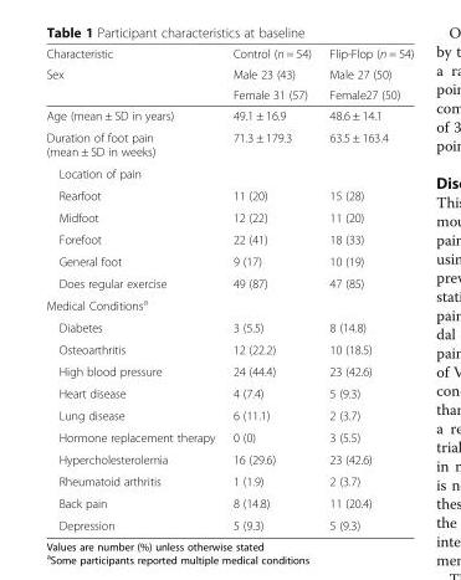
<table><thead><tr><td rowspan="3">Characteristic Sex</td><td rowspan="3">Control (n = 54) Male 23 (43) Female 31 (57)</td><td rowspan="3">Flip-Flop (n = 54) Male 27 (50) Female27 (50)</td></tr><tr></tr><tr></tr></thead><tbody><tr><td>Age (mean ± SD in years)</td><td>49.1 ± 16.9</td><td>48.6 ± 14.1</td></tr><tr><td>Duration of foot pain (mean ± SD in weeks)</td><td>71.3 ± 179.3</td><td>63.5 ± 163.4</td></tr><tr><td colspan="3">Location of pain</td></tr><tr><td>Rearfoot</td><td>11 (20)</td><td>15 (28)</td></tr><tr><td>Midfoot</td><td>12 (22)</td><td>11 (20)</td></tr><tr><td>Forefoot</td><td>22 (41)</td><td>18 (33)</td></tr><tr><td>General foot</td><td>9 (17)</td><td>10 (19)</td></tr><tr><td>Does regular exercise</td><td>49 (87)</td><td>47 (85)</td></tr><tr><td colspan="3">Medical Conditions<sup>a</sup></td></tr><tr><td>Diabetes</td><td>3 (5.5)</td><td>8 (14.8)</td></tr><tr><td>Osteoarthritis</td><td>12 (22.2)</td><td>10 (18.5)</td></tr><tr><td>High blood pressure</td><td>24 (44.4)</td><td>23 (42.6)</td></tr><tr><td>Heart disease</td><td>4 (7.4)</td><td>5 (9.3)</td></tr><tr><td>Lung disease</td><td>6 (11.1)</td><td>2 (3.7)</td></tr><tr><td>Hormone replacement therapy</td><td>0 (0)</td><td>3 (5.5)</td></tr><tr><td>Hypercholesterolemia</td><td>16 (29.6)</td><td>23 (42.6)</td></tr><tr><td>Rheumatoid arthritis</td><td>1 (1.9)</td><td>2 (3.7)</td></tr><tr><td>Back pain</td><td>8 (14.8)</td><td>11 (20.4)</td></tr><tr><td>Depression</td><td>5 (9.3)</td><td>5 (9.3)</td></tr></tbody></table>